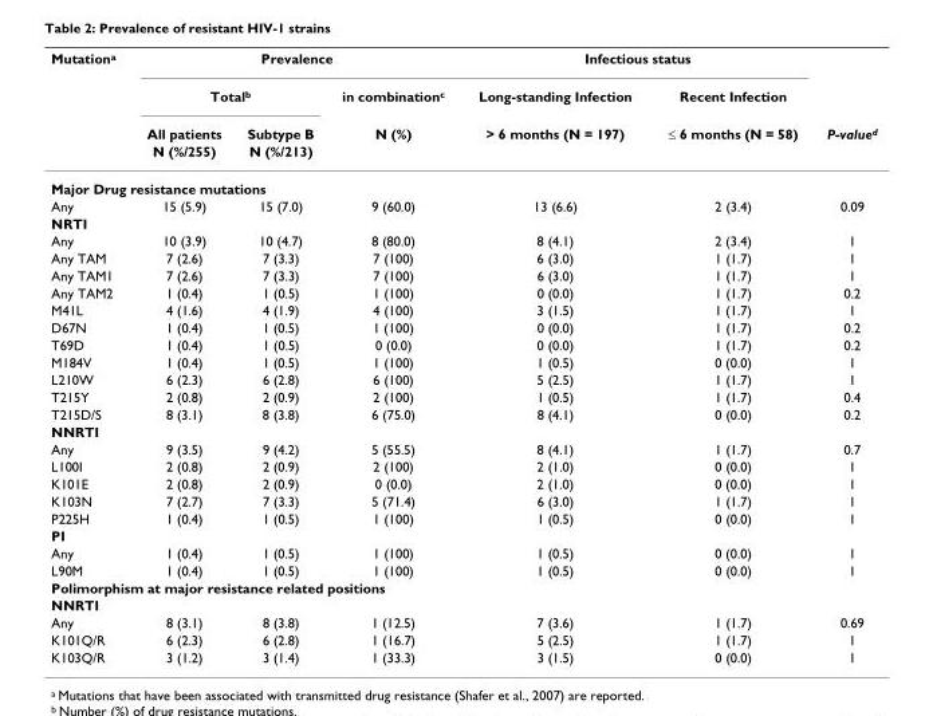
<table><thead><tr><td rowspan="4">Mutation<sup>a</sup></td><td colspan="3">Prevalence</td><td colspan="2">Infectious status</td><td rowspan="4">P-value<sup>d</sup></td></tr><tr><td colspan="2">Total<sup>b</sup></td><td rowspan="3">in combination<sup>c</sup> N (%)</td><td rowspan="3">Long-standing Infection &gt; 6 months (N = 197)</td><td rowspan="3">Recent Infection ≤ 6 months (N = 58)</td></tr><tr><td rowspan="2">All patients N (%/255)</td><td rowspan="2">Subtype B N (%/213)</td></tr><tr></tr></thead><tbody><tr><td colspan="7">Major Drug resistance mutations</td></tr><tr><td>Any</td><td>15 (5.9)</td><td>15 (7.0)</td><td>9 (60.0)</td><td>13 (6.6)</td><td>2 (3.4)</td><td>0.09</td></tr><tr><td colspan="7">NRTI</td></tr><tr><td>Any</td><td>10 (3.9)</td><td>10 (4.7)</td><td>8 (80.0)</td><td>8 (4.1)</td><td>2 (3.4)</td><td>1</td></tr><tr><td>Any TAM</td><td>7 (2.6)</td><td>7 (3.3)</td><td>7 (100)</td><td>6 (3.0)</td><td>1 (1.7)</td><td>1</td></tr><tr><td>Any TAM1</td><td>7 (2.6)</td><td>7 (3.3)</td><td>7 (100)</td><td>6 (3.0)</td><td>1 (1.7)</td><td>1</td></tr><tr><td>Any TAM2</td><td>1 (0.4)</td><td>1 (0.5)</td><td>1 (100)</td><td>0 (0.0)</td><td>1 (1.7)</td><td>0.2</td></tr><tr><td>M41L</td><td>4 (1.6)</td><td>4 (1.9)</td><td>4 (100)</td><td>3 (1.5)</td><td>1 (1.7)</td><td>1</td></tr><tr><td>D67N</td><td>1 (0.4)</td><td>1 (0.5)</td><td>1 (100)</td><td>0 (0.0)</td><td>1 (1.7)</td><td>0.2</td></tr><tr><td>T69D</td><td>1 (0.4)</td><td>1 (0.5)</td><td>0 (0.0)</td><td>0 (0.0)</td><td>1 (1.7)</td><td>0.2</td></tr><tr><td>M184V</td><td>1 (0.4)</td><td>1 (0.5)</td><td>1 (100)</td><td>1 (0.5)</td><td>0 (0.0)</td><td>1</td></tr><tr><td>L210W</td><td>6 (2.3)</td><td>6 (2.8)</td><td>6 (100)</td><td>5 (2.5)</td><td>1 (1.7)</td><td>1</td></tr><tr><td>T215Y</td><td>2 (0.8)</td><td>2 (0.9)</td><td>2 (100)</td><td>1 (0.5)</td><td>1 (1.7)</td><td>0.4</td></tr><tr><td>T215D/S</td><td>8 (3.1)</td><td>8 (3.8)</td><td>6 (75.0)</td><td>8 (4.1)</td><td>0 (0.0)</td><td>0.2</td></tr><tr><td colspan="7">NNRTI</td></tr><tr><td>Any</td><td>9 (3.5)</td><td>9 (4.2)</td><td>5 (55.5)</td><td>8 (4.1)</td><td>1 (1.7)</td><td>0.7</td></tr><tr><td>L100I</td><td>2 (0.8)</td><td>2 (0.9)</td><td>2 (100)</td><td>2 (1.0)</td><td>0 (0.0)</td><td>1</td></tr><tr><td>K101E</td><td>2 (0.8)</td><td>2 (0.9)</td><td>0 (0.0)</td><td>2 (1.0)</td><td>0 (0.0)</td><td>1</td></tr><tr><td>K103N</td><td>7 (2.7)</td><td>7 (3.3)</td><td>5 (71.4)</td><td>6 (3.0)</td><td>1 (1.7)</td><td>1</td></tr><tr><td>P225H</td><td>1 (0.4)</td><td>1 (0.5)</td><td>1 (100)</td><td>1 (0.5)</td><td>0 (0.0)</td><td>1</td></tr><tr><td colspan="7">PI</td></tr><tr><td>Any</td><td>1 (0.4)</td><td>1 (0.5)</td><td>1 (100)</td><td>1 (0.5)</td><td>0 (0.0)</td><td>1</td></tr><tr><td>L90M</td><td>1 (0.4)</td><td>1 (0.5)</td><td>1 (100)</td><td>1 (0.5)</td><td>0 (0.0)</td><td>1</td></tr><tr><td colspan="7">Polimorphism at major resistance related positions</td></tr><tr><td colspan="7">NNRTI</td></tr><tr><td>Any</td><td>8 (3.1)</td><td>8 (3.8)</td><td>1 (12.5)</td><td>7 (3.6)</td><td>1 (1.7)</td><td>0.69</td></tr><tr><td>K101Q/R</td><td>6 (2.3)</td><td>6 (2.8)</td><td>1 (16.7)</td><td>5 (2.5)</td><td>1 (1.7)</td><td>1</td></tr><tr><td>K103Q/R</td><td>3 (1.2)</td><td>3 (1.4)</td><td>1 (33.3)</td><td>3 (1.5)</td><td>0 (0.0)</td><td>1</td></tr></tbody></table>